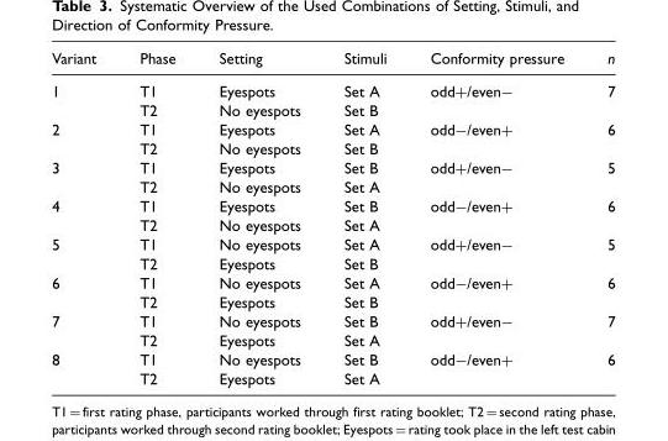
<table><thead><tr><td>Variant</td><td>Phase</td><td>Setting</td><td>Stimuli</td><td>Conformity pressure</td><td>n</td></tr></thead><tbody><tr><td rowspan="2">1</td><td>T1</td><td>Eyespots</td><td>Set A</td><td rowspan="2">odd+/even−</td><td rowspan="2">7</td></tr><tr><td>T2</td><td>No eyespots</td><td>Set B</td></tr><tr><td rowspan="2">2</td><td>T1</td><td>Eyespots</td><td>Set A</td><td rowspan="2">odd−/even+</td><td rowspan="2">6</td></tr><tr><td>T2</td><td>No eyespots</td><td>Set B</td></tr><tr><td rowspan="2">3</td><td>T1</td><td>Eyespots</td><td>Set B</td><td rowspan="2">odd+/even−</td><td rowspan="2">5</td></tr><tr><td>T2</td><td>No eyespots</td><td>Set A</td></tr><tr><td rowspan="2">4</td><td>T1</td><td>Eyespots</td><td>Set B</td><td rowspan="2">odd−/even+</td><td rowspan="2">6</td></tr><tr><td>T2</td><td>No eyespots</td><td>Set A</td></tr><tr><td rowspan="2">5</td><td>T1</td><td>No eyespots</td><td>Set A</td><td rowspan="2">odd+/even−</td><td rowspan="2">5</td></tr><tr><td>T2</td><td>Eyespots</td><td>Set B</td></tr><tr><td rowspan="2">6</td><td>T1</td><td>No eyespots</td><td>Set A</td><td rowspan="2">odd−/even+</td><td rowspan="2">6</td></tr><tr><td>T2</td><td>Eyespots</td><td>Set B</td></tr><tr><td rowspan="2">7</td><td>T1</td><td>No eyespots</td><td>Set B</td><td rowspan="2">odd+/even−</td><td rowspan="2">7</td></tr><tr><td>T2</td><td>Eyespots</td><td>Set A</td></tr><tr><td rowspan="2">8</td><td>T1</td><td>No eyespots</td><td>Set B</td><td rowspan="2">odd−/even+</td><td rowspan="2">6</td></tr><tr><td>T2</td><td>Eyespots</td><td>Set A</td></tr></tbody></table>